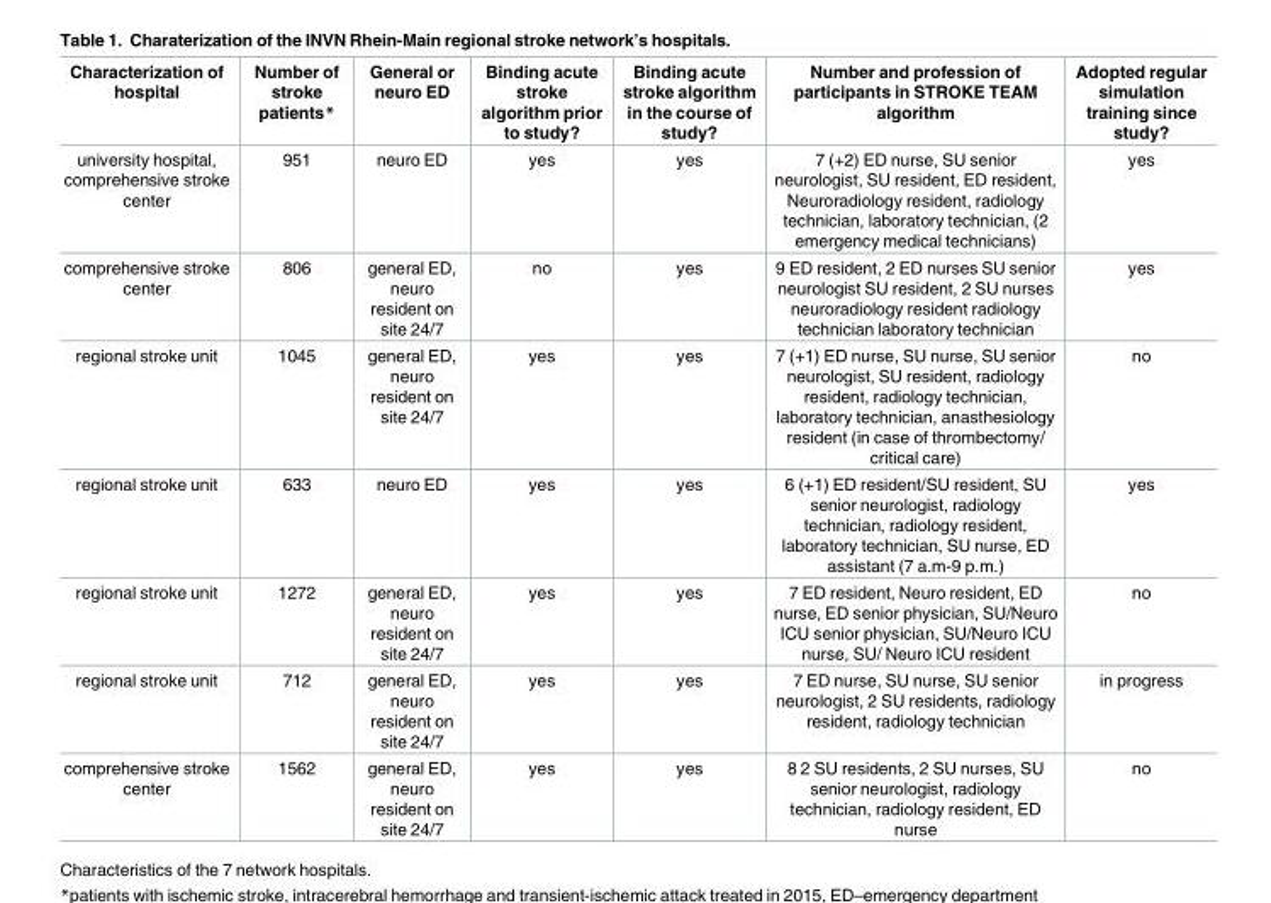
<table><thead><tr><td>Characterization of hospital</td><td>Number of stroke patients*</td><td>General or neuro ED</td><td>Binding acute stroke algorithm prior to study?</td><td>Binding acute stroke algorithm in the course of study?</td><td>Number and profession of participants in STROKE TEAM algorithm</td><td>Adopted regular simulation training since study?</td></tr></thead><tbody><tr><td>university hospital, comprehensive stroke center</td><td>951</td><td>neuro ED</td><td>yes</td><td>yes</td><td>7 (+2) ED nurse, SU senior neurologist, SU resident, ED resident, Neuroradiology resident, radiology technician, laboratory technician, (2 emergency medical technicians)</td><td>yes</td></tr><tr><td>comprehensive stroke center</td><td>806</td><td>general ED, neuro resident on site 24/7</td><td>no</td><td>yes</td><td>9 ED resident, 2 ED nurses SU senior neurologist SU resident, 2 SU nurses neuroradiology resident radiology technician laboratory technician</td><td>yes</td></tr><tr><td>regional stroke unit</td><td>1045</td><td>general ED, neuro resident on site 24/7</td><td>yes</td><td>yes</td><td>7 (+1) ED nurse, SU nurse, SU senior neurologist, SU resident, radiology resident, radiology technician, laboratory technician, anasthesiology resident (in case of thrombectomy/ critical care)</td><td>no</td></tr><tr><td>regional stroke unit</td><td>633</td><td>neuro ED</td><td>yes</td><td>yes</td><td>6 (+1) ED resident/SU resident, SU senior neurologist, radiology technician, radiology resident, laboratory technician, SU nurse, ED assistant (7 a.m-9 p.m.)</td><td>yes</td></tr><tr><td>regional stroke unit</td><td>1272</td><td>general ED, neuro resident on site 24/7</td><td>yes</td><td>yes</td><td>7 ED resident, Neuro resident, ED nurse, ED senior physician, SU/Neuro ICU senior physician, SU/Neuro ICU nurse, SU/ Neuro ICU resident</td><td>no</td></tr><tr><td>regional stroke unit</td><td>712</td><td>general ED, neuro resident on site 24/7</td><td>yes</td><td>yes</td><td>7 ED nurse, SU nurse, SU senior neurologist, 2 SU residents, radiology resident, radiology technician</td><td>in progress</td></tr><tr><td>comprehensive stroke center</td><td>1562</td><td>general ED, neuro resident on site 24/7</td><td>yes</td><td>yes</td><td>8 2 SU residents, 2 SU nurses, SU senior neurologist, radiology technician, radiology resident, ED nurse</td><td>no</td></tr></tbody></table>